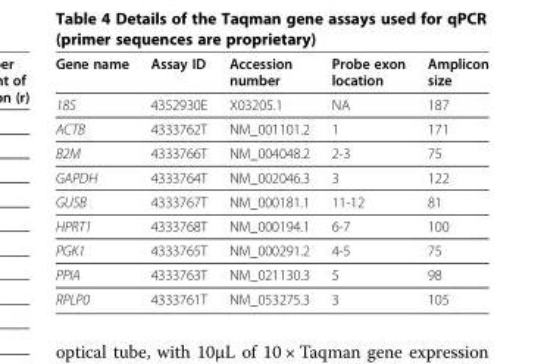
<table><thead><tr><td>Gene name</td><td>Assay ID</td><td>Accession number</td><td>Probe exon location</td><td>Amplicon size</td></tr></thead><tbody><tr><td>18S</td><td>4352930E</td><td>X03205.1</td><td>NA</td><td>187</td></tr><tr><td>ACTB</td><td>4333762T</td><td>NM_001101.2</td><td>1</td><td>171</td></tr><tr><td>B2M</td><td>4333766T</td><td>NM_004048.2</td><td>2-3</td><td>75</td></tr><tr><td>GAPDH</td><td>4333764T</td><td>NM_002046.3</td><td>3</td><td>122</td></tr><tr><td>GUSB</td><td>4333767T</td><td>NM_000181.1</td><td>11-12</td><td>81</td></tr><tr><td>HPRT1</td><td>4333768T</td><td>NM_000194.1</td><td>6-7</td><td>100</td></tr><tr><td>PGK1</td><td>4333765T</td><td>NM_000291.2</td><td>4-5</td><td>75</td></tr><tr><td>PPIA</td><td>4333763T</td><td>NM_021130.3</td><td>5</td><td>98</td></tr><tr><td>RPLP0</td><td>4333761T</td><td>NM_053275.3</td><td>3</td><td>105</td></tr></tbody></table>